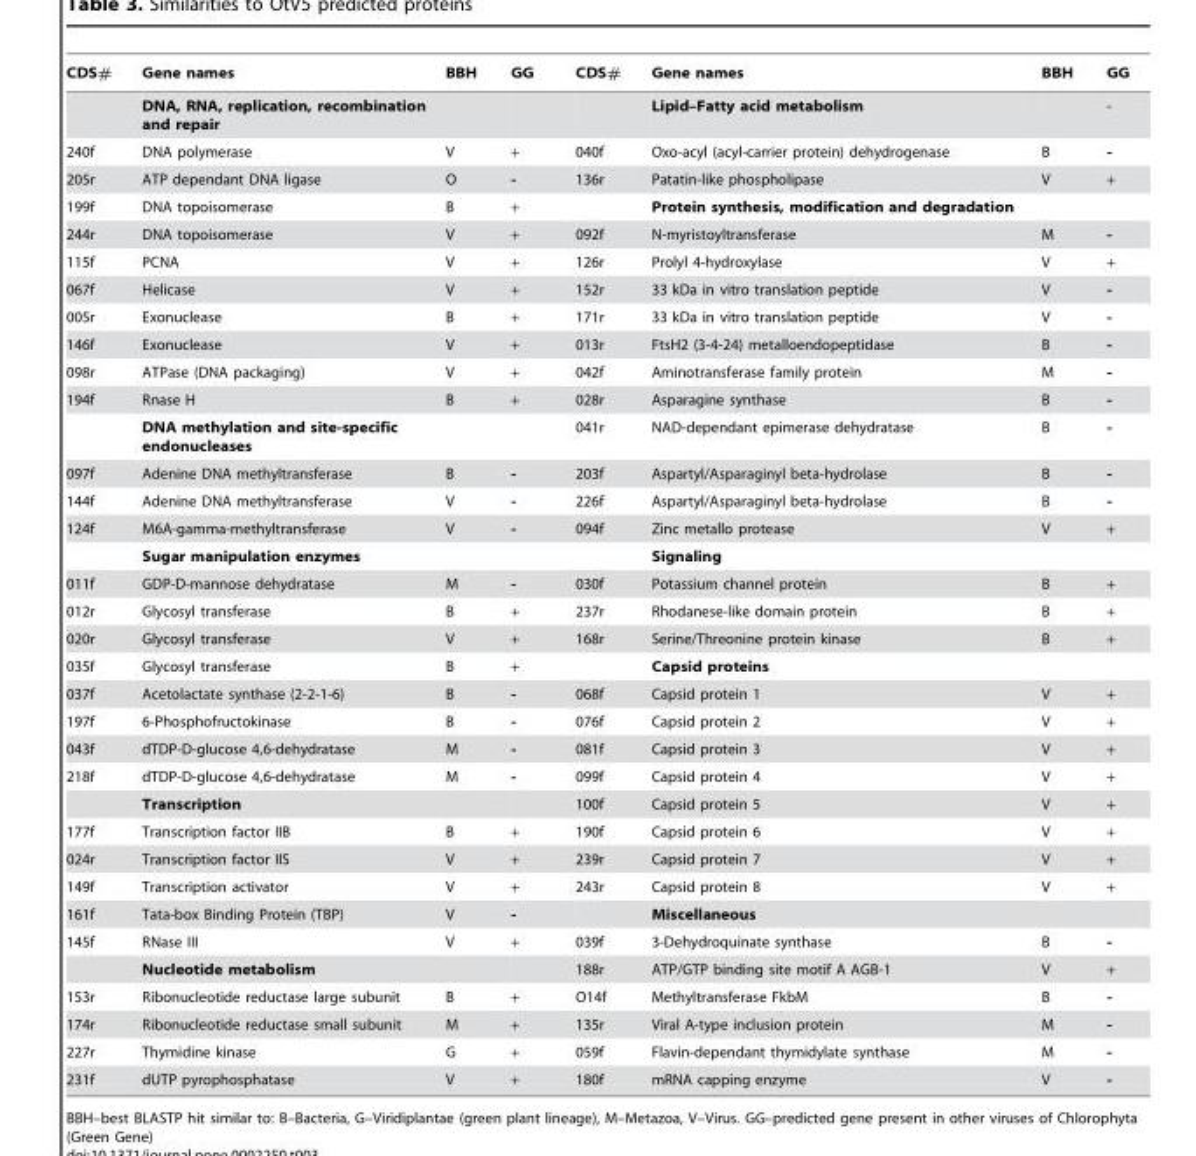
<table><thead><tr><td>CDS#</td><td>Gene names</td><td>BBH</td><td>GG</td><td>CDS#</td><td>Gene names</td><td>BBH</td><td>GG</td></tr></thead><tbody><tr><td></td><td>DNA, RNA, replication, recombination and repair</td><td></td><td></td><td></td><td>Lipid–Fatty acid metabolism</td><td></td><td>-</td></tr><tr><td>240f</td><td>DNA polymerase</td><td>V</td><td>+</td><td>040f</td><td>Oxo-acyl (acyl-carrier protein) dehydrogenase</td><td>B</td><td>-</td></tr><tr><td>205r</td><td>ATP dependant DNA ligase</td><td>O</td><td>-</td><td>136r</td><td>Patatin-like phospholipase</td><td>V</td><td>+</td></tr><tr><td>199f</td><td>DNA topoisomerase</td><td>B</td><td>+</td><td></td><td>Protein synthesis, modification and degradation</td><td></td><td></td></tr><tr><td>244r</td><td>DNA topoisomerase</td><td>V</td><td>+</td><td>092f</td><td>N-myristoyltransferase</td><td>M</td><td>-</td></tr><tr><td>115f</td><td>PCNA</td><td>V</td><td>+</td><td>126r</td><td>Prolyl 4-hydroxylase</td><td>V</td><td>+</td></tr><tr><td>067f</td><td>Helicase</td><td>V</td><td>+</td><td>152r</td><td>33 kDa in vitro translation peptide</td><td>V</td><td>-</td></tr><tr><td>005r</td><td>Exonuclease</td><td>B</td><td>+</td><td>171r</td><td>33 kDa in vitro translation peptide</td><td>V</td><td>-</td></tr><tr><td>146f</td><td>Exonuclease</td><td>V</td><td>+</td><td>013r</td><td>FtsH2 (3-4-24) metalloendopeptidase</td><td>B</td><td>-</td></tr><tr><td>098r</td><td>ATPase (DNA packaging)</td><td>V</td><td>+</td><td>042f</td><td>Aminotransferase family protein</td><td>M</td><td>-</td></tr><tr><td rowspan="2">194f</td><td>Rnase H</td><td>B</td><td>+</td><td>028r</td><td>Asparagine synthase</td><td>B</td><td>-</td></tr><tr><td>DNA methylation and site-specific endonucleases</td><td></td><td></td><td>041r</td><td>NAD-dependant epimerase dehydratase</td><td>B</td><td>-</td></tr><tr><td>097f</td><td>Adenine DNA methyltransferase</td><td>B</td><td>-</td><td>203f</td><td>Aspartyl/Asparaginyl beta-hydrolase</td><td>B</td><td>-</td></tr><tr><td>144f</td><td>Adenine DNA methyltransferase</td><td>V</td><td>-</td><td>226f</td><td>Aspartyl/Asparaginyl beta-hydrolase</td><td>B</td><td>-</td></tr><tr><td rowspan="2">124f</td><td>M6A-gamma-methyltransferase</td><td>V</td><td>-</td><td>094f</td><td>Zinc metallo protease</td><td>V</td><td>+</td></tr><tr><td>Sugar manipulation enzymes</td><td></td><td></td><td></td><td>Signaling</td><td></td><td></td></tr><tr><td>011f</td><td>GDP-D-mannose dehydratase</td><td>M</td><td>-</td><td>030f</td><td>Potassium channel protein</td><td>B</td><td>+</td></tr><tr><td>012r</td><td>Glycosyl transferase</td><td>B</td><td>+</td><td>237r</td><td>Rhodanese-like domain protein</td><td>B</td><td>+</td></tr><tr><td>020r</td><td>Glycosyl transferase</td><td>V</td><td>+</td><td>168r</td><td>Serine/Threonine protein kinase</td><td>B</td><td>+</td></tr><tr><td>035f</td><td>Glycosyl transferase</td><td>B</td><td>+</td><td></td><td>Capsid proteins</td><td></td><td></td></tr><tr><td>037f</td><td>Acetolactate synthase (2-2-1-6)</td><td>B</td><td>-</td><td>068f</td><td>Capsid protein 1</td><td>V</td><td>+</td></tr><tr><td>197f</td><td>6-Phosphofructokinase</td><td>B</td><td>-</td><td>076f</td><td>Capsid protein 2</td><td>V</td><td>+</td></tr><tr><td>043f</td><td>dTDP-D-glucose 4,6-dehydratase</td><td>M</td><td>-</td><td>081f</td><td>Capsid protein 3</td><td>V</td><td>+</td></tr><tr><td rowspan="2">218f</td><td>dTDP-D-glucose 4,6-dehydratase</td><td>M</td><td>-</td><td>099f</td><td>Capsid protein 4</td><td>V</td><td>+</td></tr><tr><td>Transcription</td><td></td><td></td><td>100f</td><td>Capsid protein 5</td><td>V</td><td>+</td></tr><tr><td>177f</td><td>Transcription factor IIB</td><td>B</td><td>+</td><td>190f</td><td>Capsid protein 6</td><td>V</td><td>+</td></tr><tr><td>024r</td><td>Transcription factor IIS</td><td>V</td><td>+</td><td>239r</td><td>Capsid protein 7</td><td>V</td><td>+</td></tr><tr><td>149f</td><td>Transcription activator</td><td>V</td><td>+</td><td>243r</td><td>Capsid protein 8</td><td>V</td><td>+</td></tr><tr><td>161f</td><td>Tata-box Binding Protein (TBP)</td><td>V</td><td>-</td><td></td><td>Miscellaneous</td><td></td><td></td></tr><tr><td rowspan="2">145f</td><td>RNase III</td><td>V</td><td>+</td><td>039f</td><td>3-Dehydroquinate synthase</td><td>B</td><td>-</td></tr><tr><td>Nucleotide metabolism</td><td></td><td></td><td>188r</td><td>ATP/GTP binding site motif A AGB-1</td><td>V</td><td>+</td></tr><tr><td>153r</td><td>Ribonucleotide reductase large subunit</td><td>B</td><td>+</td><td>O14f</td><td>Methyltransferase FkbM</td><td>B</td><td>-</td></tr><tr><td>174r</td><td>Ribonucleotide reductase small subunit</td><td>M</td><td>+</td><td>135r</td><td>Viral A-type inclusion protein</td><td>M</td><td>-</td></tr><tr><td>227r</td><td>Thymidine kinase</td><td>G</td><td>+</td><td>059f</td><td>Flavin-dependant thymidylate synthase</td><td>M</td><td>-</td></tr><tr><td>231f</td><td>dUTP pyrophosphatase</td><td>V</td><td>+</td><td>180f</td><td>mRNA capping enzyme</td><td>V</td><td>-</td></tr></tbody></table>